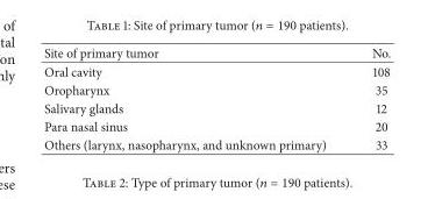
<table><thead><tr><td>Site of primary tumor</td><td>No.</td></tr></thead><tbody><tr><td>Oral cavity</td><td>108</td></tr><tr><td>Oropharynx</td><td>35</td></tr><tr><td>Salivary glands</td><td>12</td></tr><tr><td>Para nasal sinus</td><td>20</td></tr><tr><td>Others (larynx, nasopharynx, and unknown primary)</td><td>33</td></tr></tbody></table>